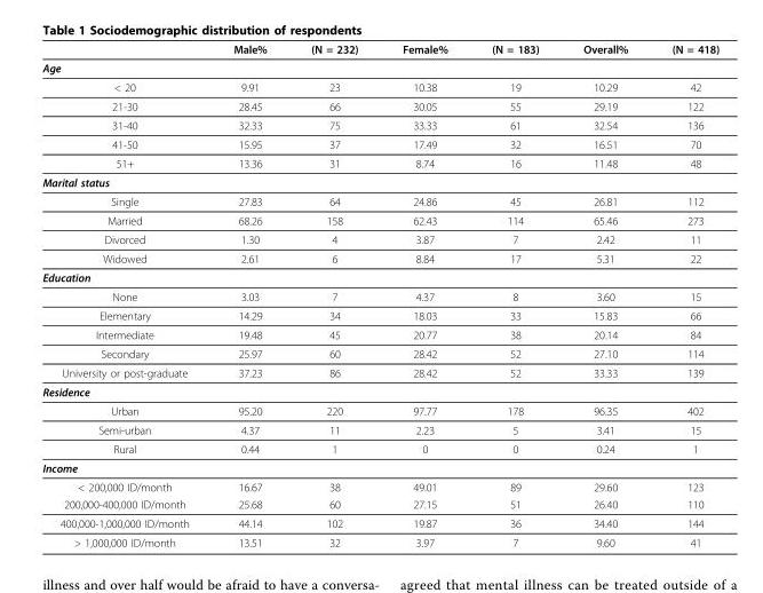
<table><thead><tr><td></td><td>Male%</td><td>(N = 232)</td><td>Female%</td><td>(N = 183)</td><td>Overall%</td><td>(N = 418)</td></tr></thead><tbody><tr><td colspan="7">Age</td></tr><tr><td>&lt; 20</td><td>9.91</td><td>23</td><td>10.38</td><td>19</td><td>10.29</td><td>42</td></tr><tr><td>21-30</td><td>28.45</td><td>66</td><td>30.05</td><td>55</td><td>29.19</td><td>122</td></tr><tr><td>31-40</td><td>32.33</td><td>75</td><td>33.33</td><td>61</td><td>32.54</td><td>136</td></tr><tr><td>41-50</td><td>15.95</td><td>37</td><td>17.49</td><td>32</td><td>16.51</td><td>70</td></tr><tr><td>51+</td><td>13.36</td><td>31</td><td>8.74</td><td>16</td><td>11.48</td><td>48</td></tr><tr><td colspan="7">Marital status</td></tr><tr><td>Single</td><td>27.83</td><td>64</td><td>24.86</td><td>45</td><td>26.81</td><td>112</td></tr><tr><td>Married</td><td>68.26</td><td>158</td><td>62.43</td><td>114</td><td>65.46</td><td>273</td></tr><tr><td>Divorced</td><td>1.30</td><td>4</td><td>3.87</td><td>7</td><td>2.42</td><td>11</td></tr><tr><td>Widowed</td><td>2.61</td><td>6</td><td>8.84</td><td>17</td><td>5.31</td><td>22</td></tr><tr><td colspan="7">Education</td></tr><tr><td>None</td><td>3.03</td><td>7</td><td>4.37</td><td>8</td><td>3.60</td><td>15</td></tr><tr><td>Elementary</td><td>14.29</td><td>34</td><td>18.03</td><td>33</td><td>15.83</td><td>66</td></tr><tr><td>Intermediate</td><td>19.48</td><td>45</td><td>20.77</td><td>38</td><td>20.14</td><td>84</td></tr><tr><td>Secondary</td><td>25.97</td><td>60</td><td>28.42</td><td>52</td><td>27.10</td><td>114</td></tr><tr><td>University or post-graduate</td><td>37.23</td><td>86</td><td>28.42</td><td>52</td><td>33.33</td><td>139</td></tr><tr><td colspan="7">Residence</td></tr><tr><td>Urban</td><td>95.20</td><td>220</td><td>97.77</td><td>178</td><td>96.35</td><td>402</td></tr><tr><td>Semi-urban</td><td>4.37</td><td>11</td><td>2.23</td><td>5</td><td>3.41</td><td>15</td></tr><tr><td>Rural</td><td>0.44</td><td>1</td><td>0</td><td>0</td><td>0.24</td><td>1</td></tr><tr><td colspan="7">Income</td></tr><tr><td>&lt; 200,000 ID/month</td><td>16.67</td><td>38</td><td>49.01</td><td>89</td><td>29.60</td><td>123</td></tr><tr><td>200,000-400,000 ID/month</td><td>25.68</td><td>60</td><td>27.15</td><td>51</td><td>26.40</td><td>110</td></tr><tr><td>400,000-1,000,000 ID/month</td><td>44.14</td><td>102</td><td>19.87</td><td>36</td><td>34.40</td><td>144</td></tr><tr><td>&gt; 1,000,000 ID/month</td><td>13.51</td><td>32</td><td>3.97</td><td>7</td><td>9.60</td><td>41</td></tr></tbody></table>